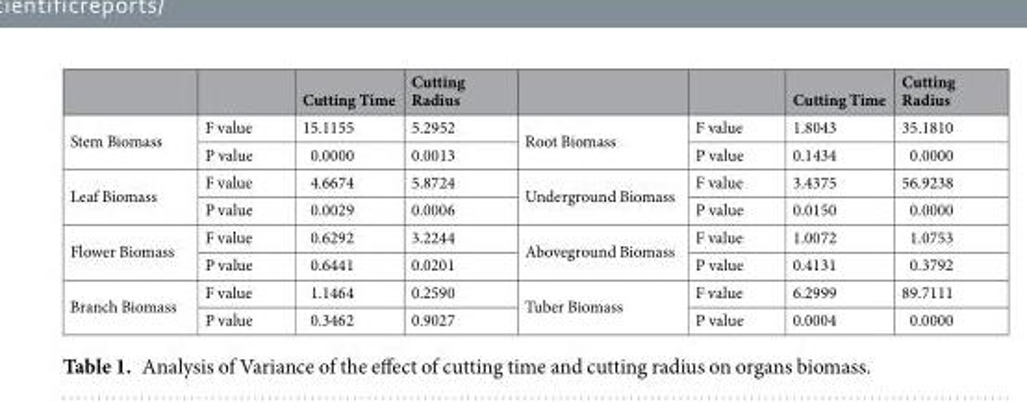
<table><thead><tr><td></td><td></td><td>Cutting Time</td><td>Cutting Radius</td><td></td><td></td><td>Cutting Time</td><td>Cutting Radius</td></tr></thead><tbody><tr><td rowspan="2">Stem Biomass</td><td>F value</td><td>15.1155</td><td>5.2952</td><td rowspan="2">Root Biomass</td><td>F value</td><td>1.8043</td><td>35.1810</td></tr><tr><td>P value</td><td>0.0000</td><td>0.0013</td><td>P value</td><td>0.1434</td><td>0.0000</td></tr><tr><td rowspan="2">Leaf Biomass</td><td>F value</td><td>4.6674</td><td>5.8724</td><td rowspan="2">Underground Biomass</td><td>F value</td><td>3.4375</td><td>56.9238</td></tr><tr><td>P value</td><td>0.0029</td><td>0.0006</td><td>P value</td><td>0.0150</td><td>0.0000</td></tr><tr><td rowspan="2">Flower Biomass</td><td>F value</td><td>0.6292</td><td>3.2244</td><td rowspan="2">Aboveground Biomass</td><td>F value</td><td>1.0072</td><td>1.0753</td></tr><tr><td>P value</td><td>0.6441</td><td>0.0201</td><td>P value</td><td>0.4131</td><td>0.3792</td></tr><tr><td rowspan="2">Branch Biomass</td><td>F value</td><td>1.1464</td><td>0.2590</td><td rowspan="2">Tuber Biomass</td><td>F value</td><td>6.2999</td><td>89.7111</td></tr><tr><td>P value</td><td>0.3462</td><td>0.9027</td><td>P value</td><td>0.0004</td><td>0.0000</td></tr></tbody></table>